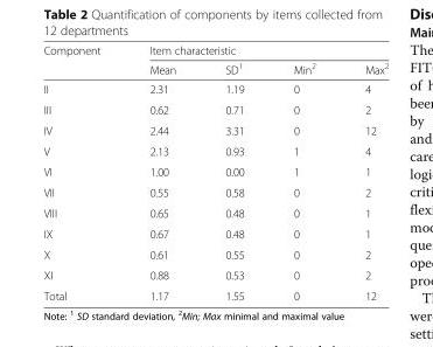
<table><thead><tr><td rowspan="2">Component</td><td colspan="4">Item characteristic</td></tr><tr><td>Mean</td><td>SD<sup>1</sup></td><td>Min<sup>2</sup></td><td>Max<sup>2</sup></td></tr></thead><tbody><tr><td>II</td><td>2.31</td><td>1.19</td><td>0</td><td>4</td></tr><tr><td>III</td><td>0.62</td><td>0.71</td><td>0</td><td>2</td></tr><tr><td>IV</td><td>2.44</td><td>3.31</td><td>0</td><td>12</td></tr><tr><td>V</td><td>2.13</td><td>0.93</td><td>1</td><td>4</td></tr><tr><td>VI</td><td>1.00</td><td>0.00</td><td>1</td><td>1</td></tr><tr><td>VII</td><td>0.55</td><td>0.58</td><td>0</td><td>2</td></tr><tr><td>VIII</td><td>0.65</td><td>0.48</td><td>0</td><td>1</td></tr><tr><td>IX</td><td>0.67</td><td>0.48</td><td>0</td><td>1</td></tr><tr><td>X</td><td>0.61</td><td>0.55</td><td>0</td><td>2</td></tr><tr><td>XI</td><td>0.88</td><td>0.53</td><td>0</td><td>2</td></tr><tr><td>Total</td><td>1.17</td><td>1.55</td><td>0</td><td>12</td></tr></tbody></table>